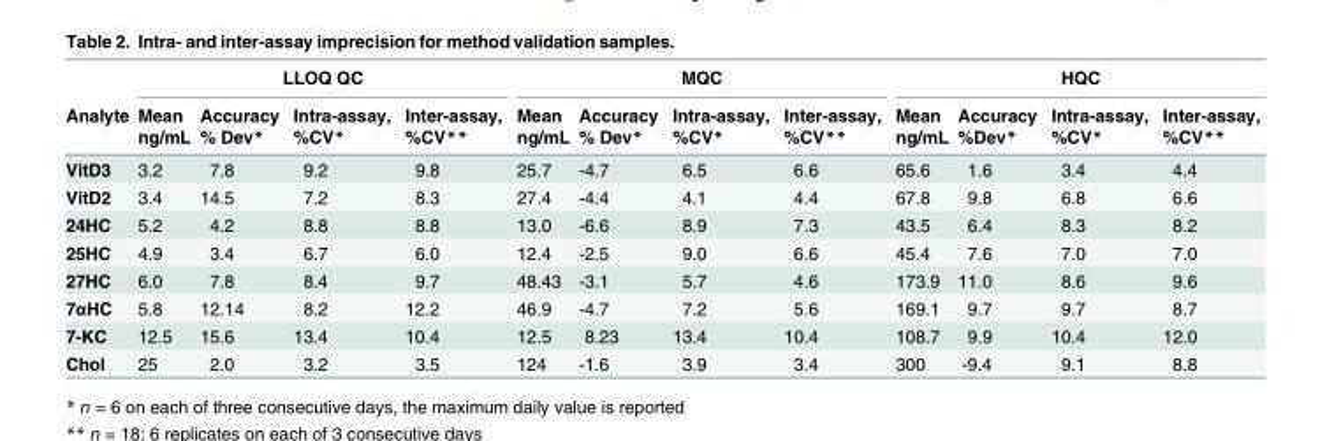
<table><thead><tr><td rowspan="2">Analyte</td><td colspan="4">LLOQ QC</td><td colspan="4">MQC</td><td colspan="4">HQC</td></tr><tr><td>Mean ng/mL</td><td>Accuracy % Dev*</td><td>Intra-assay, %CV*</td><td>Inter-assay, %CV**</td><td>Mean ng/mL</td><td>Accuracy % Dev*</td><td>Intra-assay, %CV*</td><td>Inter-assay, %CV**</td><td>Mean ng/mL</td><td>Accuracy %Dev*</td><td>Intra-assay, %CV*</td><td>Inter-assay, %CV**</td></tr></thead><tbody><tr><td>VitD3</td><td>3.2</td><td>7.8</td><td>9.2</td><td>9.8</td><td>25.7</td><td>-4.7</td><td>6.5</td><td>6.6</td><td>65.6</td><td>1.6</td><td>3.4</td><td>4.4</td></tr><tr><td>VitD2</td><td>3.4</td><td>14.5</td><td>7.2</td><td>8.3</td><td>27.4</td><td>-4.4</td><td>4.1</td><td>4.4</td><td>67.8</td><td>9.8</td><td>6.8</td><td>6.6</td></tr><tr><td>24HC</td><td>5.2</td><td>4.2</td><td>8.8</td><td>8.8</td><td>13.0</td><td>-6.6</td><td>8.9</td><td>7.3</td><td>43.5</td><td>6.4</td><td>8.3</td><td>8.2</td></tr><tr><td>25HC</td><td>4.9</td><td>3.4</td><td>6.7</td><td>6.0</td><td>12.4</td><td>-2.5</td><td>9.0</td><td>6.6</td><td>45.4</td><td>7.6</td><td>7.0</td><td>7.0</td></tr><tr><td>27HC</td><td>6.0</td><td>7.8</td><td>8.4</td><td>9.7</td><td>48.43</td><td>-3.1</td><td>5.7</td><td>4.6</td><td>173.9</td><td>11.0</td><td>8.6</td><td>9.6</td></tr><tr><td>7αHC</td><td>5.8</td><td>12.14</td><td>8.2</td><td>12.2</td><td>46.9</td><td>-4.7</td><td>7.2</td><td>5.6</td><td>169.1</td><td>9.7</td><td>9.7</td><td>8.7</td></tr><tr><td>7-KC</td><td>12.5</td><td>15.6</td><td>13.4</td><td>10.4</td><td>12.5</td><td>8.23</td><td>13.4</td><td>10.4</td><td>108.7</td><td>9.9</td><td>10.4</td><td>12.0</td></tr><tr><td>Chol</td><td>25</td><td>2.0</td><td>3.2</td><td>3.5</td><td>124</td><td>-1.6</td><td>3.9</td><td>3.4</td><td>300</td><td>-9.4</td><td>9.1</td><td>8.8</td></tr></tbody></table>